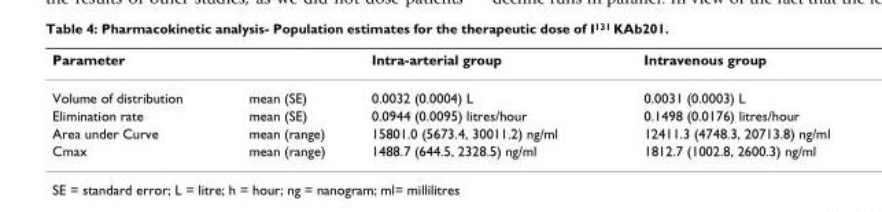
<table><thead><tr><td>Parameter</td><td></td><td>Intra-arterial group</td><td>Intravenous group</td></tr></thead><tbody><tr><td>Volume of distribution</td><td>mean (SE)</td><td>0.0032 (0.0004) L</td><td>0.0031 (0.0003) L</td></tr><tr><td>Elimination rate</td><td>mean (SE)</td><td>0.0944 (0.0095) litres/hour</td><td>0.1498 (0.0176) litres/hour</td></tr><tr><td>Area under Curve</td><td>mean (range)</td><td>15801.0 (5673.4, 30011.2) ng/ml</td><td>12411.3 (4748.3, 20713.8) ng/ml</td></tr><tr><td>Cmax</td><td>mean (range)</td><td>1488.7 (644.5, 2328.5) ng/ml</td><td>1812.7 (1002.8, 2600.3) ng/ml</td></tr></tbody></table>